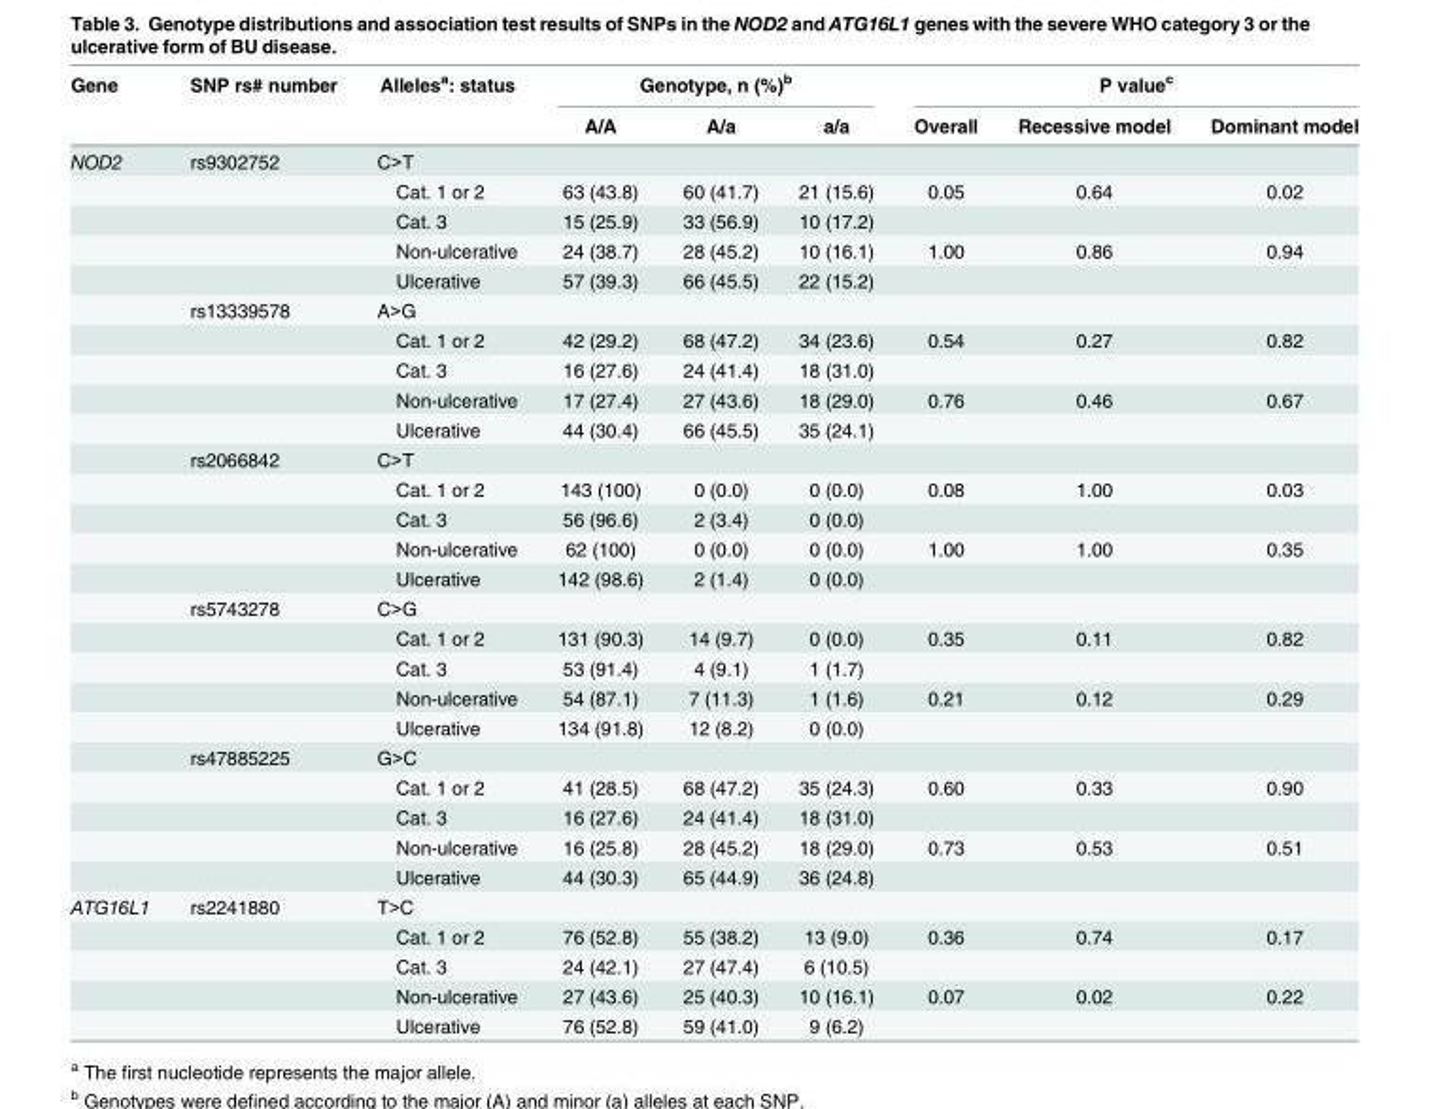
<table><thead><tr><td rowspan="2">Gene</td><td rowspan="2">SNP rs# number</td><td rowspan="2">Alleles<sup>a</sup>: status</td><td colspan="3">Genotype, n (%)<sup>b</sup></td><td colspan="3">P value<sup>c</sup></td></tr><tr><td>A/A</td><td>A/a</td><td>a/a</td><td>Overall</td><td>Recessive model</td><td>Dominant model</td></tr></thead><tbody><tr><td rowspan="25">NOD2</td><td>rs9302752</td><td>C&gt;T</td><td></td><td></td><td></td><td></td><td></td><td></td></tr><tr><td></td><td>Cat. 1 or 2</td><td>63 (43.8)</td><td>60 (41.7)</td><td>21 (15.6)</td><td>0.05</td><td>0.64</td><td>0.02</td></tr><tr><td></td><td>Cat. 3</td><td>15 (25.9)</td><td>33 (56.9)</td><td>10 (17.2)</td><td></td><td></td><td></td></tr><tr><td></td><td>Non-ulcerative</td><td>24 (38.7)</td><td>28 (45.2)</td><td>10 (16.1)</td><td>1.00</td><td>0.86</td><td>0.94</td></tr><tr><td></td><td>Ulcerative</td><td>57 (39.3)</td><td>66 (45.5)</td><td>22 (15.2)</td><td></td><td></td><td></td></tr><tr><td>rs13339578</td><td>A&gt;G</td><td></td><td></td><td></td><td></td><td></td><td></td></tr><tr><td></td><td>Cat. 1 or 2</td><td>42 (29.2)</td><td>68 (47.2)</td><td>34 (23.6)</td><td>0.54</td><td>0.27</td><td>0.82</td></tr><tr><td></td><td>Cat. 3</td><td>16 (27.6)</td><td>24 (41.4)</td><td>18 (31.0)</td><td></td><td></td><td></td></tr><tr><td></td><td>Non-ulcerative</td><td>17 (27.4)</td><td>27 (43.6)</td><td>18 (29.0)</td><td>0.76</td><td>0.46</td><td>0.67</td></tr><tr><td></td><td>Ulcerative</td><td>44 (30.4)</td><td>66 (45.5)</td><td>35 (24.1)</td><td></td><td></td><td></td></tr><tr><td>rs2066842</td><td>C&gt;T</td><td></td><td></td><td></td><td></td><td></td><td></td></tr><tr><td></td><td>Cat. 1 or 2</td><td>143 (100)</td><td>0 (0.0)</td><td>0 (0.0)</td><td>0.08</td><td>1.00</td><td>0.03</td></tr><tr><td></td><td>Cat. 3</td><td>56 (96.6)</td><td>2 (3.4)</td><td>0 (0.0)</td><td></td><td></td><td></td></tr><tr><td></td><td>Non-ulcerative</td><td>62 (100)</td><td>0 (0.0)</td><td>0 (0.0)</td><td>1.00</td><td>1.00</td><td>0.35</td></tr><tr><td></td><td>Ulcerative</td><td>142 (98.6)</td><td>2 (1.4)</td><td>0 (0.0)</td><td></td><td></td><td></td></tr><tr><td>rs5743278</td><td>C&gt;G</td><td></td><td></td><td></td><td></td><td></td><td></td></tr><tr><td></td><td>Cat. 1 or 2</td><td>131 (90.3)</td><td>14 (9.7)</td><td>0 (0.0)</td><td>0.35</td><td>0.11</td><td>0.82</td></tr><tr><td></td><td>Cat. 3</td><td>53 (91.4)</td><td>4 (9.1)</td><td>1 (1.7)</td><td></td><td></td><td></td></tr><tr><td></td><td>Non-ulcerative</td><td>54 (87.1)</td><td>7 (11.3)</td><td>1 (1.6)</td><td>0.21</td><td>0.12</td><td>0.29</td></tr><tr><td></td><td>Ulcerative</td><td>134 (91.8)</td><td>12 (8.2)</td><td>0 (0.0)</td><td></td><td></td><td></td></tr><tr><td>rs47885225</td><td>G&gt;C</td><td></td><td></td><td></td><td></td><td></td><td></td></tr><tr><td></td><td>Cat. 1 or 2</td><td>41 (28.5)</td><td>68 (47.2)</td><td>35 (24.3)</td><td>0.60</td><td>0.33</td><td>0.90</td></tr><tr><td></td><td>Cat. 3</td><td>16 (27.6)</td><td>24 (41.4)</td><td>18 (31.0)</td><td></td><td></td><td></td></tr><tr><td></td><td>Non-ulcerative</td><td>16 (25.8)</td><td>28 (45.2)</td><td>18 (29.0)</td><td>0.73</td><td>0.53</td><td>0.51</td></tr><tr><td></td><td>Ulcerative</td><td>44 (30.3)</td><td>65 (44.9)</td><td>36 (24.8)</td><td></td><td></td><td></td></tr><tr><td rowspan="5">ATG16L1</td><td>rs2241880</td><td>T&gt;C</td><td></td><td></td><td></td><td></td><td></td><td></td></tr><tr><td></td><td>Cat. 1 or 2</td><td>76 (52.8)</td><td>55 (38.2)</td><td>13 (9.0)</td><td>0.36</td><td>0.74</td><td>0.17</td></tr><tr><td></td><td>Cat. 3</td><td>24 (42.1)</td><td>27 (47.4)</td><td>6 (10.5)</td><td></td><td></td><td></td></tr><tr><td></td><td>Non-ulcerative</td><td>27 (43.6)</td><td>25 (40.3)</td><td>10 (16.1)</td><td>0.07</td><td>0.02</td><td>0.22</td></tr><tr><td></td><td>Ulcerative</td><td>76 (52.8)</td><td>59 (41.0)</td><td>9 (6.2)</td><td></td><td></td><td></td></tr></tbody></table>